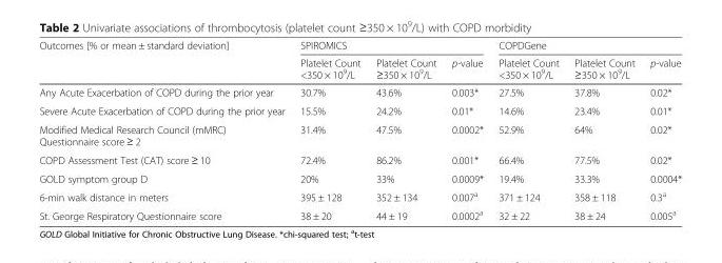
<table><thead><tr><td rowspan="2">Outcomes [% or mean ± standard deviation]</td><td colspan="3">SPIROMICS</td><td colspan="3">COPDGene</td></tr><tr><td>Platelet Count &lt;350 × 10<sup>9</sup>/L</td><td>Platelet Count ≥350 × 10<sup>9</sup>/L</td><td>p-value</td><td>Platelet Count &lt;350 × 10<sup>9</sup>/L</td><td>Platelet Count ≥350 × 10<sup>9</sup>/L</td><td>p-value</td></tr></thead><tbody><tr><td>Any Acute Exacerbation of COPD during the prior year</td><td>30.7%</td><td>43.6%</td><td>0.003*</td><td>27.5%</td><td>37.8%</td><td>0.02*</td></tr><tr><td>Severe Acute Exacerbation of COPD during the prior year</td><td>15.5%</td><td>24.2%</td><td>0.01*</td><td>14.6%</td><td>23.4%</td><td>0.01*</td></tr><tr><td>Modified Medical Research Council (mMRC) Questionnaire score ≥ 2</td><td>31.4%</td><td>47.5%</td><td>0.0002*</td><td>52.9%</td><td>64%</td><td>0.02*</td></tr><tr><td>COPD Assessment Test (CAT) score ≥ 10</td><td>72.4%</td><td>86.2%</td><td>0.001*</td><td>66.4%</td><td>77.5%</td><td>0.02*</td></tr><tr><td>GOLD symptom group D</td><td>20%</td><td>33%</td><td>0.0009*</td><td>19.4%</td><td>33.3%</td><td>0.0004*</td></tr><tr><td>6-min walk distance in meters</td><td>395 ± 128</td><td>352 ± 134</td><td>0.007<sup>a</sup></td><td>371 ± 124</td><td>358 ± 118</td><td>0.3<sup>a</sup></td></tr><tr><td>St. George Respiratory Questionnaire score</td><td>38 ± 20</td><td>44 ± 19</td><td>0.0002<sup>a</sup></td><td>32 ± 22</td><td>38 ± 24</td><td>0.005<sup>a</sup></td></tr></tbody></table>